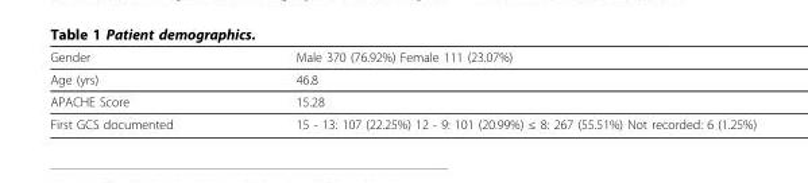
<table><tbody><tr><td>Gender</td><td>Male 370 (76.92%) Female 111 (23.07%)</td></tr><tr><td>Age (yrs)</td><td>46.8</td></tr><tr><td>APACHE Score</td><td>15.28</td></tr><tr><td>First GCS documented</td><td>15 - 13: 107 (22.25%) 12 - 9: 101 (20.99%) ≤ 8: 267 (55.51%) Not recorded: 6 (1.25%)</td></tr></tbody></table>